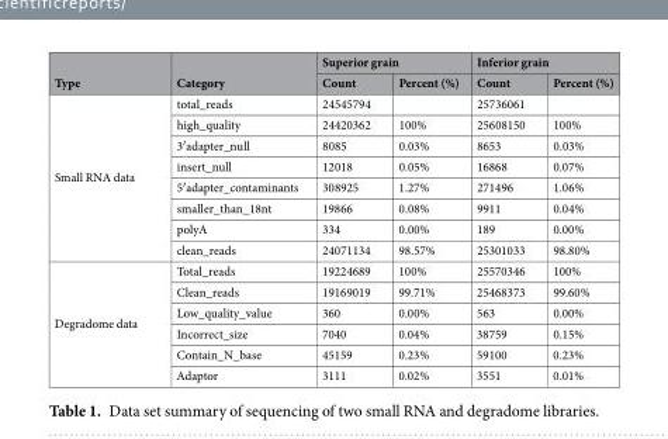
<table><thead><tr><td rowspan="2">Type</td><td rowspan="2">Category</td><td colspan="2">Superior grain</td><td colspan="2">Inferior grain</td></tr><tr><td>Count</td><td>Percent (%)</td><td>Count</td><td>Percent (%)</td></tr></thead><tbody><tr><td rowspan="8">Small RNA data</td><td>total_reads</td><td>24545794</td><td></td><td>25736061</td><td></td></tr><tr><td>high_quality</td><td>24420362</td><td>100%</td><td>25608150</td><td>100%</td></tr><tr><td>3′adapter_null</td><td>8085</td><td>0.03%</td><td>8653</td><td>0.03%</td></tr><tr><td>insert_null</td><td>12018</td><td>0.05%</td><td>16868</td><td>0.07%</td></tr><tr><td>5′adapter_contaminants</td><td>308925</td><td>1.27%</td><td>271496</td><td>1.06%</td></tr><tr><td>smaller_than_18nt</td><td>19866</td><td>0.08%</td><td>9911</td><td>0.04%</td></tr><tr><td>polyA</td><td>334</td><td>0.00%</td><td>189</td><td>0.00%</td></tr><tr><td>clean_reads</td><td>24071134</td><td>98.57%</td><td>25301033</td><td>98.80%</td></tr><tr><td rowspan="6">Degradome data</td><td>Total_reads</td><td>19224689</td><td>100%</td><td>25570346</td><td>100%</td></tr><tr><td>Clean_reads</td><td>19169019</td><td>99.71%</td><td>25468373</td><td>99.60%</td></tr><tr><td>Low_quality_value</td><td>360</td><td>0.00%</td><td>563</td><td>0.00%</td></tr><tr><td>Incorrect_size</td><td>7040</td><td>0.04%</td><td>38759</td><td>0.15%</td></tr><tr><td>Contain_N_base</td><td>45159</td><td>0.23%</td><td>59100</td><td>0.23%</td></tr><tr><td>Adaptor</td><td>3111</td><td>0.02%</td><td>3551</td><td>0.01%</td></tr></tbody></table>